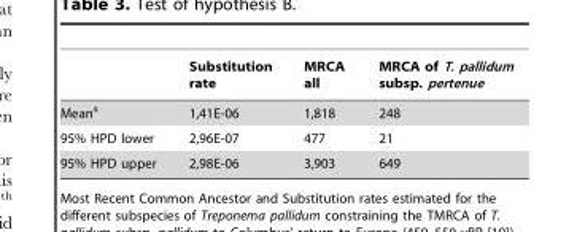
<table><thead><tr><td></td><td>Substitution rate</td><td>MRCA all</td><td>MRCA of T. pallidum subsp. pertenue</td></tr></thead><tbody><tr><td>Mean<sup>a</sup></td><td>1,41E-06</td><td>1,818</td><td>248</td></tr><tr><td>95% HPD lower</td><td>2,96E-07</td><td>477</td><td>21</td></tr><tr><td>95% HPD upper</td><td>2,98E-06</td><td>3,903</td><td>649</td></tr></tbody></table>